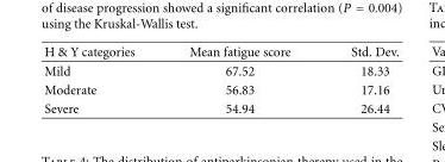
<table><thead><tr><td>H &amp; Y categories</td><td>Mean fatigue score</td><td>Std. Dev.</td></tr></thead><tbody><tr><td>Mild</td><td>67.52</td><td>18.33</td></tr><tr><td>Moderate</td><td>56.83</td><td>17.16</td></tr><tr><td>Severe</td><td>54.94</td><td>26.44</td></tr></tbody></table>